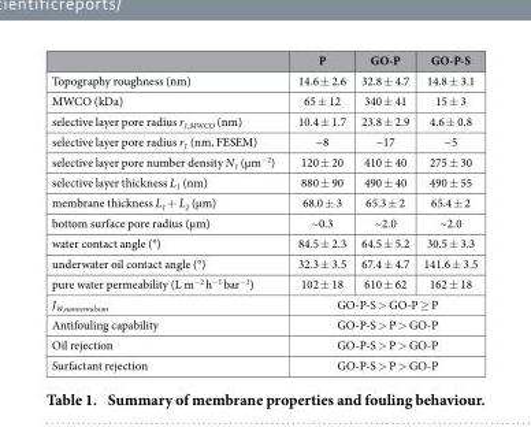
<table><thead><tr><td></td><td>P</td><td>GO-P</td><td>GO-P-S</td></tr></thead><tbody><tr><td>Topography roughness (nm)</td><td>14.6 ± 2.6</td><td>32.8 ± 4.7</td><td>14.8 ± 3.1</td></tr><tr><td>MWCO (kDa)</td><td>65 ± 12</td><td>340 ± 41</td><td>15 ± 3</td></tr><tr><td>selective layer pore radius r<sub>1,MWCO</sub> (nm)</td><td>10.4 ± 1.7</td><td>23.8 ± 2.9</td><td>4.6 ± 0.8</td></tr><tr><td>selective layer pore radius r<sub>1</sub> (nm, FESEM)</td><td>~8</td><td>~17</td><td>~5</td></tr><tr><td>selective layer pore number density N<sub>1</sub> (μm<sup>−2</sup>)</td><td>120 ± 20</td><td>410 ± 40</td><td>275 ± 30</td></tr><tr><td>selective layer thickness L<sub>1</sub> (nm)</td><td>880 ± 90</td><td>490 ± 40</td><td>490 ± 55</td></tr><tr><td>membrane thickness L<sub>1</sub> + L<sub>2</sub> (μm)</td><td>68.0 ± 3</td><td>65.3 ± 2</td><td>65.4 ± 2</td></tr><tr><td>bottom surface pore radius (μm)</td><td>~0.3</td><td>~2.0</td><td>~2.0</td></tr><tr><td>water contact angle (°)</td><td>84.5 ± 2.3</td><td>64.5 ± 5.2</td><td>30.5 ± 3.3</td></tr><tr><td>underwater oil contact angle (°)</td><td>32.3 ± 3.5</td><td>67.4 ± 4.7</td><td>141.6 ± 3.5</td></tr><tr><td>pure water permeability (L m<sup>−2</sup> h<sup>−1</sup> bar<sup>−1</sup>)</td><td>102 ± 18</td><td>610 ± 62</td><td>162 ± 18</td></tr><tr><td>J<sub>W,nanoemulsion</sub></td><td colspan="3">GO-P-S &gt; GO-P ≥ P</td></tr><tr><td>Antifouling capability</td><td colspan="3">GO-P-S &gt; P &gt; GO-P</td></tr><tr><td>Oil rejection</td><td colspan="3">GO-P-S &gt; P &gt; GO-P</td></tr><tr><td>Surfactant rejection</td><td colspan="3">GO-P-S &gt; P &gt; GO-P</td></tr></tbody></table>